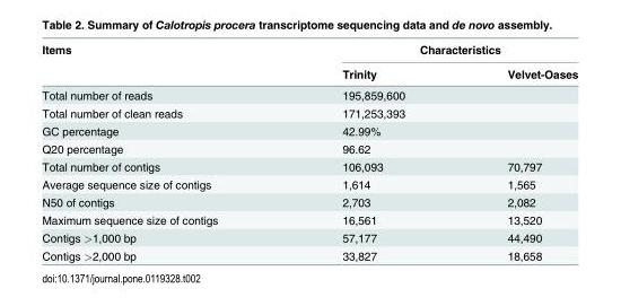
<table><thead><tr><td rowspan="2">Items</td><td colspan="2">Characteristics</td></tr><tr><td>Trinity</td><td>Velvet-Oases</td></tr></thead><tbody><tr><td>Total number of reads</td><td colspan="2">195,859,600</td></tr><tr><td>Total number of clean reads</td><td colspan="2">171,253,393</td></tr><tr><td>GC percentage</td><td colspan="2">42.99%</td></tr><tr><td>Q20 percentage</td><td colspan="2">96.62</td></tr><tr><td>Total number of contigs</td><td>106,093</td><td>70,797</td></tr><tr><td>Average sequence size of contigs</td><td>1,614</td><td>1,565</td></tr><tr><td>N50 of contigs</td><td>2,703</td><td>2,082</td></tr><tr><td>Maximum sequence size of contigs</td><td>16,561</td><td>13,520</td></tr><tr><td>Contigs &gt;1,000 bp</td><td>57,177</td><td>44,490</td></tr><tr><td>Contigs &gt;2,000 bp</td><td>33,827</td><td>18,658</td></tr></tbody></table>